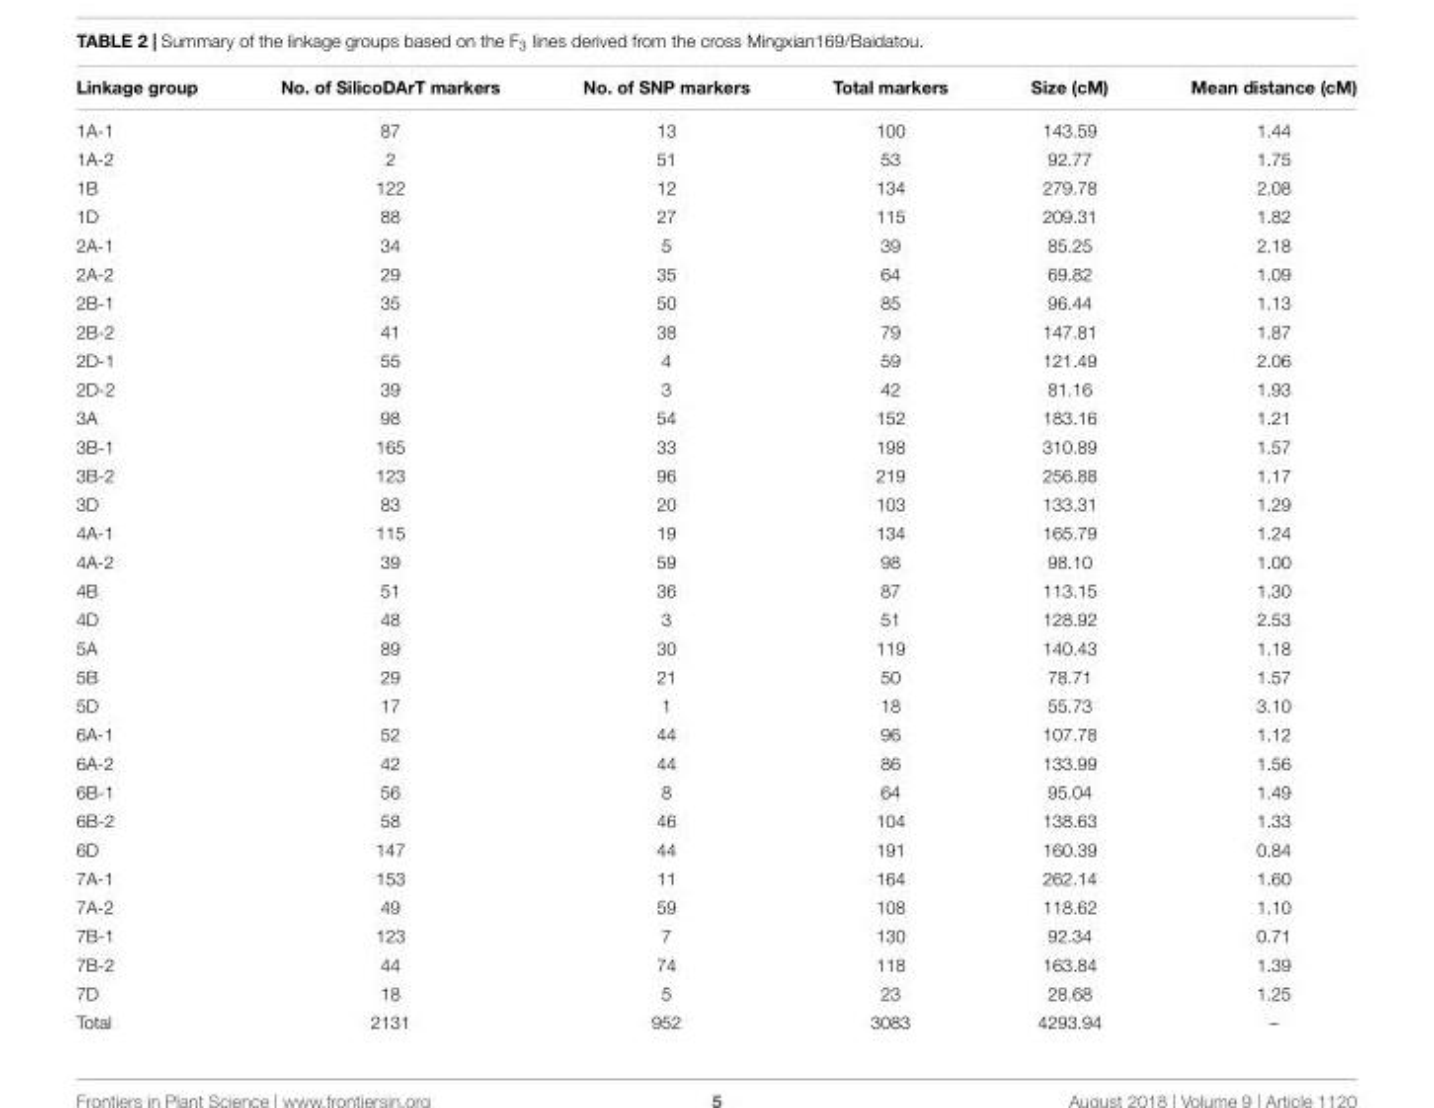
<table><thead><tr><td>Linkage group</td><td>No. of SilicoDArT markers</td><td>No. of SNP markers</td><td>Total markers</td><td>Size (cM)</td><td>Mean distance (cM)</td></tr></thead><tbody><tr><td>1A-1</td><td>87</td><td>13</td><td>100</td><td>143.59</td><td>1.44</td></tr><tr><td>1A-2</td><td>2</td><td>51</td><td>53</td><td>92.77</td><td>1.75</td></tr><tr><td>1B</td><td>122</td><td>12</td><td>134</td><td>279.78</td><td>2.08</td></tr><tr><td>1D</td><td>88</td><td>27</td><td>115</td><td>209.31</td><td>1.82</td></tr><tr><td>2A-1</td><td>34</td><td>5</td><td>39</td><td>85.25</td><td>2.18</td></tr><tr><td>2A-2</td><td>29</td><td>35</td><td>64</td><td>69.82</td><td>1.09</td></tr><tr><td>2B-1</td><td>35</td><td>50</td><td>85</td><td>96.44</td><td>1.13</td></tr><tr><td>2B-2</td><td>41</td><td>38</td><td>79</td><td>147.81</td><td>1.87</td></tr><tr><td>2D-1</td><td>55</td><td>4</td><td>59</td><td>121.49</td><td>2.06</td></tr><tr><td>2D-2</td><td>39</td><td>3</td><td>42</td><td>81.16</td><td>1.93</td></tr><tr><td>3A</td><td>98</td><td>54</td><td>152</td><td>183.16</td><td>1.21</td></tr><tr><td>3B-1</td><td>165</td><td>33</td><td>198</td><td>310.89</td><td>1.57</td></tr><tr><td>3B-2</td><td>123</td><td>96</td><td>219</td><td>256.88</td><td>1.17</td></tr><tr><td>3D</td><td>83</td><td>20</td><td>103</td><td>133.31</td><td>1.29</td></tr><tr><td>4A-1</td><td>115</td><td>19</td><td>134</td><td>165.79</td><td>1.24</td></tr><tr><td>4A-2</td><td>39</td><td>59</td><td>98</td><td>98.10</td><td>1.00</td></tr><tr><td>4B</td><td>51</td><td>36</td><td>87</td><td>113.15</td><td>1.30</td></tr><tr><td>4D</td><td>48</td><td>3</td><td>51</td><td>128.92</td><td>2.53</td></tr><tr><td>5A</td><td>89</td><td>30</td><td>119</td><td>140.43</td><td>1.18</td></tr><tr><td>5B</td><td>29</td><td>21</td><td>50</td><td>78.71</td><td>1.57</td></tr><tr><td>5D</td><td>17</td><td>1</td><td>18</td><td>55.73</td><td>3.10</td></tr><tr><td>6A-1</td><td>52</td><td>44</td><td>96</td><td>107.78</td><td>1.12</td></tr><tr><td>6A-2</td><td>42</td><td>44</td><td>86</td><td>133.99</td><td>1.56</td></tr><tr><td>6B-1</td><td>56</td><td>8</td><td>64</td><td>95.04</td><td>1.49</td></tr><tr><td>6B-2</td><td>58</td><td>46</td><td>104</td><td>138.63</td><td>1.33</td></tr><tr><td>6D</td><td>147</td><td>44</td><td>191</td><td>160.39</td><td>0.84</td></tr><tr><td>7A-1</td><td>153</td><td>11</td><td>164</td><td>262.14</td><td>1.60</td></tr><tr><td>7A-2</td><td>49</td><td>59</td><td>108</td><td>118.62</td><td>1.10</td></tr><tr><td>7B-1</td><td>123</td><td>7</td><td>130</td><td>92.34</td><td>0.71</td></tr><tr><td>7B-2</td><td>44</td><td>74</td><td>118</td><td>163.84</td><td>1.39</td></tr><tr><td>7D</td><td>18</td><td>5</td><td>23</td><td>28.68</td><td>1.25</td></tr><tr><td>Total</td><td>2131</td><td>952</td><td>3083</td><td>4293.94</td><td>–</td></tr></tbody></table>